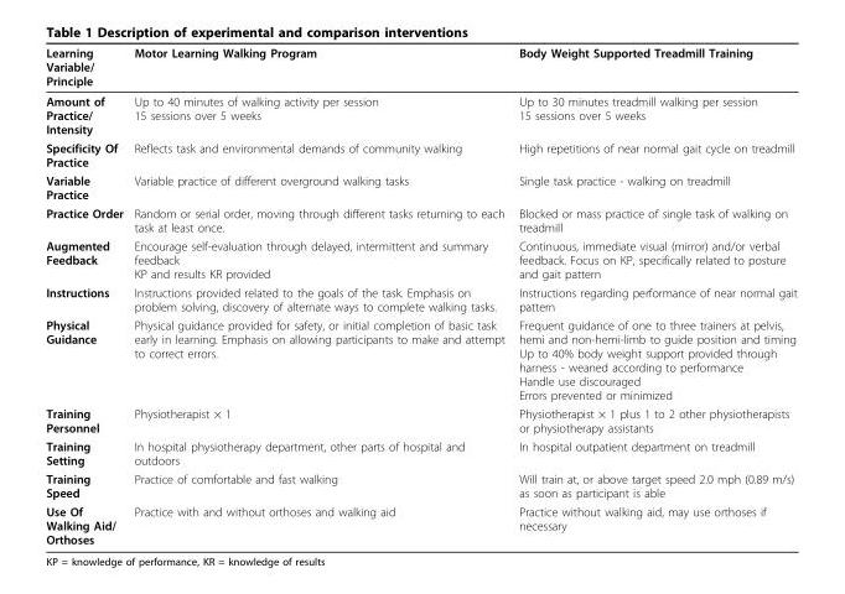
<table><thead><tr><td>Learning Variable/ Principle</td><td>Motor Learning Walking Program</td><td>Body Weight Supported Treadmill Training</td></tr></thead><tbody><tr><td>Amount of Practice/ Intensity</td><td>Up to 40 minutes of walking activity per session 15 sessions over 5 weeks</td><td>Up to 30 minutes treadmill walking per session 15 sessions over 5 weeks</td></tr><tr><td>Specificity Of Practice</td><td>Reflects task and environmental demands of community walking</td><td>High repetitions of near normal gait cycle on treadmill</td></tr><tr><td>Variable Practice</td><td>Variable practice of different overground walking tasks</td><td>Single task practice - walking on treadmill</td></tr><tr><td>Practice Order</td><td>Random or serial order, moving through different tasks returning to each task at least once.</td><td>Blocked or mass practice of single task of walking on treadmill</td></tr><tr><td>Augmented Feedback</td><td>Encourage self-evaluation through delayed, intermittent and summary feedback KP and results KR provided</td><td>Continuous, immediate visual (mirror) and/or verbal feedback. Focus on KP, specifically related to posture and gait pattern</td></tr><tr><td>Instructions</td><td>Instructions provided related to the goals of the task. Emphasis on problem solving, discovery of alternate ways to complete walking tasks.</td><td>Instructions regarding performance of near normal gait pattern</td></tr><tr><td>Physical Guidance</td><td>Physical guidance provided for safety, or initial completion of basic task early in learning. Emphasis on allowing participants to make and attempt to correct errors.</td><td>Frequent guidance of one to three trainers at pelvis, hemi and non-hemi-limb to guide position and timing Up to 40% body weight support provided through harness - weaned according to performance Handle use discouraged Errors prevented or minimized</td></tr><tr><td>Training Personnel</td><td>Physiotherapist × 1</td><td>Physiotherapist × 1 plus 1 to 2 other physiotherapists or physiotherapy assistants</td></tr><tr><td>Training Setting</td><td>In hospital physiotherapy department, other parts of hospital and outdoors</td><td>In hospital outpatient department on treadmill</td></tr><tr><td>Training Speed</td><td>Practice of comfortable and fast walking</td><td>Will train at, or above target speed 2.0 mph (0.89 m/s) as soon as participant is able</td></tr><tr><td>Use Of Walking Aid/ Orthoses</td><td>Practice with and without orthoses and walking aid</td><td>Practice without walking aid, may use orthoses if necessary</td></tr></tbody></table>